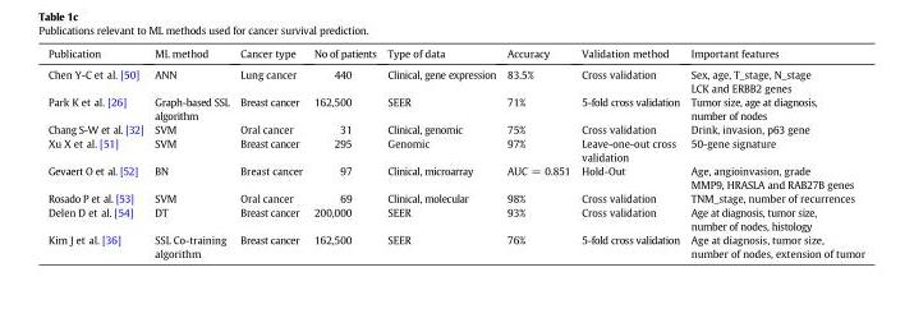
<table><thead><tr><td>Publication</td><td>ML method</td><td>Cancer type</td><td>No of patients</td><td>Type of data</td><td>Accuracy</td><td>Validation method</td><td>Important features</td></tr></thead><tbody><tr><td>Chen Y-C et al. [50]</td><td>ANN</td><td>Lung cancer</td><td>440</td><td>Clinical, gene expression</td><td>83.5%</td><td>Cross validation</td><td>Sex, age, T_stage, N_stage LCK and ERBB2 genes</td></tr><tr><td>Park K et al. [26]</td><td>Graph-based SSL algorithm</td><td>Breast cancer</td><td>162,500</td><td>SEER</td><td>71%</td><td>5-fold cross validation</td><td>Tumor size, age at diagnosis, number of nodes</td></tr><tr><td>Chang S-W et al. [32]</td><td>SVM</td><td>Oral cancer</td><td>31</td><td>Clinical, genomic</td><td>75%</td><td>Cross validation</td><td>Drink, invasion, p63 gene</td></tr><tr><td>Xu X et al. [51]</td><td>SVM</td><td>Breast cancer</td><td>295</td><td>Genomic</td><td>97%</td><td>Leave-one-out cross validation</td><td>50-gene signature</td></tr><tr><td>Gevaert O et al. [52]</td><td>BN</td><td>Breast cancer</td><td>97</td><td>Clinical, microarray</td><td>AUC = 0.851</td><td>Hold-Out</td><td>Age, angioinvasion, grade MMP9, HRASLA and RAB27B genes</td></tr><tr><td>Rosado P et al. [53]</td><td>SVM</td><td>Oral cancer</td><td>69</td><td>Clinical, molecular</td><td>98%</td><td>Cross validation</td><td>TNM_stage, number of recurrences</td></tr><tr><td>Delen D et al. [54]</td><td>DT</td><td>Breast cancer</td><td>200,000</td><td>SEER</td><td>93%</td><td>Cross validation</td><td>Age at diagnosis, tumor size, number of nodes, histology</td></tr><tr><td>Kim J et al. [36]</td><td>SSL Co-training algorithm</td><td>Breast cancer</td><td>162,500</td><td>SEER</td><td>76%</td><td>5-fold cross validation</td><td>Age at diagnosis, tumor size, number of nodes, extension of tumor</td></tr></tbody></table>